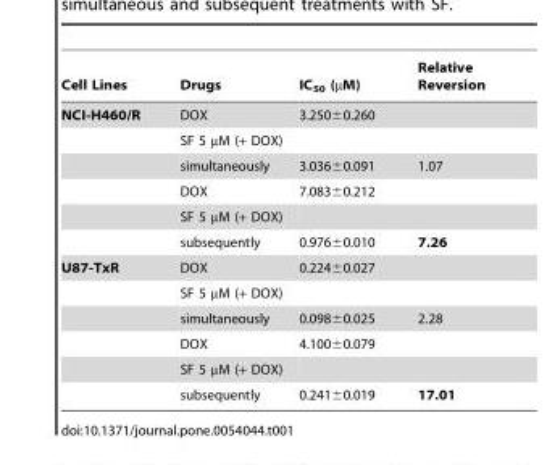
<table><thead><tr><td>Cell Lines</td><td>Drugs</td><td>IC<sub>50</sub> (µM)</td><td>Relative Reversion</td></tr></thead><tbody><tr><td rowspan="6">NCI-H460/R</td><td>DOX</td><td>3.250±0.260</td><td></td></tr><tr><td>SF 5 µM (+ DOX)</td><td></td><td></td></tr><tr><td>simultaneously</td><td>3.036±0.091</td><td>1.07</td></tr><tr><td>DOX</td><td>7.083±0.212</td><td></td></tr><tr><td>SF 5 µM (+ DOX)</td><td></td><td></td></tr><tr><td>subsequently</td><td>0.976±0.010</td><td>7.26</td></tr><tr><td rowspan="6">U87-TxR</td><td>DOX</td><td>0.224±0.027</td><td></td></tr><tr><td>SF 5 µM (+ DOX)</td><td></td><td></td></tr><tr><td>simultaneously</td><td>0.098±0.025</td><td>2.28</td></tr><tr><td>DOX</td><td>4.100±0.079</td><td></td></tr><tr><td>SF 5 µM (+ DOX)</td><td></td><td></td></tr><tr><td>subsequently</td><td>0.241±0.019</td><td>17.01</td></tr></tbody></table>